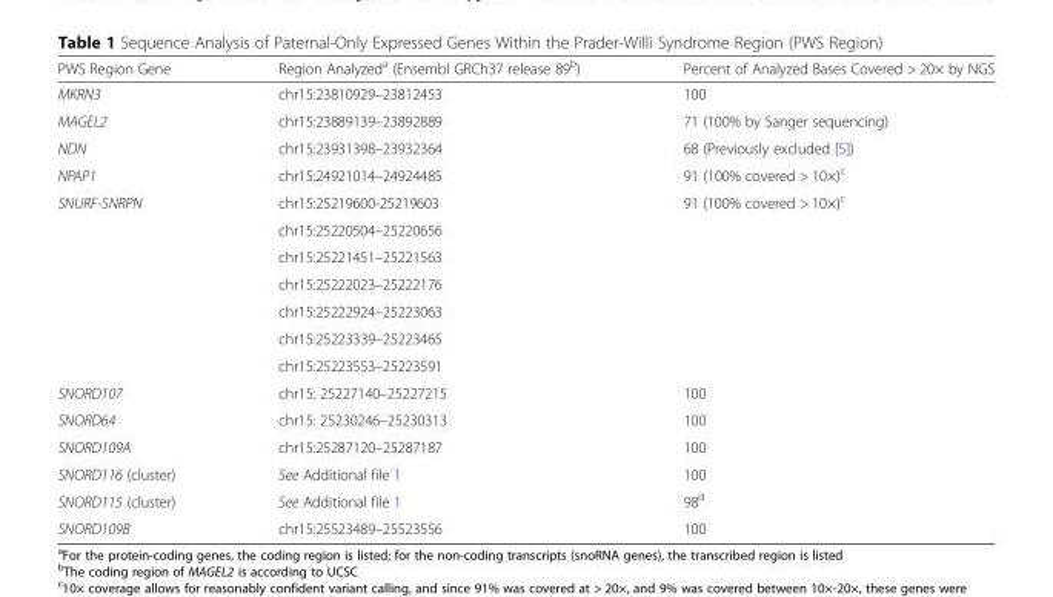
<table><thead><tr><td>PWS Region Gene</td><td>Region Analyzed<sup>a</sup> (Ensembl GRCh37 release 89<sup>b</sup>)</td><td>Percent of Analyzed Bases Covered &gt; 20× by NGS</td></tr></thead><tbody><tr><td>MKRN3</td><td>chr15:23810929–23812453</td><td>100</td></tr><tr><td>MAGEL2</td><td>chr15:23889139–23892889</td><td>71 (100% by Sanger sequencing)</td></tr><tr><td>NDN</td><td>chr15:23931398–23932364</td><td>68 (Previously excluded [5])</td></tr><tr><td>NPAP1</td><td>chr15:24921014–24924485</td><td>91 (100% covered &gt; 10×)<sup>c</sup></td></tr><tr><td rowspan="7">SNURF-SNRPN</td><td>chr15:25219600-25219603</td><td rowspan="7">91 (100% covered &gt; 10×)<sup>c</sup></td></tr><tr><td>chr15:25220504–25220656</td></tr><tr><td>chr15:25221451–25221563</td></tr><tr><td>chr15:25222023–25222176</td></tr><tr><td>chr15:25222924–25223063</td></tr><tr><td>chr15:25223339–25223465</td></tr><tr><td>chr15:25223553–25223591</td></tr><tr><td>SNORD107</td><td>chr15: 25227140–25227215</td><td>100</td></tr><tr><td>SNORD64</td><td>chr15: 25230246–25230313</td><td>100</td></tr><tr><td>SNORD109A</td><td>chr15:25287120–25287187</td><td>100</td></tr><tr><td>SNORD116 (cluster)</td><td>See Additional file 1</td><td>100</td></tr><tr><td>SNORD115 (cluster)</td><td>See Additional file 1</td><td>98<sup>d</sup></td></tr><tr><td>SNORD109B</td><td>chr15:25523489–25523556</td><td>100</td></tr></tbody></table>